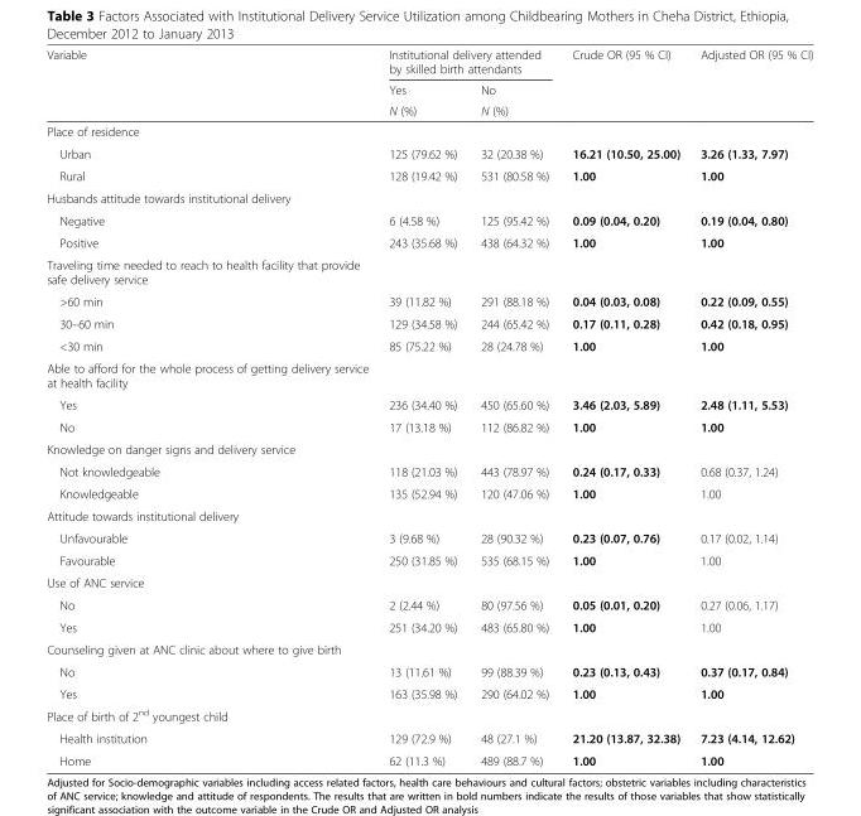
<table><thead><tr><td rowspan="3">Variable</td><td colspan="2">Institutional delivery attended by skilled birth attendants</td><td rowspan="3">Crude OR (95 % CI)</td><td rowspan="3">Adjusted OR (95 % CI)</td></tr><tr><td rowspan="2">Yes N (%)</td><td rowspan="2">No N (%)</td></tr><tr></tr></thead><tbody><tr><td colspan="5">Place of residence</td></tr><tr><td>Urban</td><td>125 (79.62 %)</td><td>32 (20.38 %)</td><td>16.21 (10.50, 25.00)</td><td>3.26 (1.33, 7.97)</td></tr><tr><td>Rural</td><td>128 (19.42 %)</td><td>531 (80.58 %)</td><td>1.00</td><td>1.00</td></tr><tr><td colspan="5">Husbands attitude towards institutional delivery</td></tr><tr><td>Negative</td><td>6 (4.58 %)</td><td>125 (95.42 %)</td><td>0.09 (0.04, 0.20)</td><td>0.19 (0.04, 0.80)</td></tr><tr><td>Positive</td><td>243 (35.68 %)</td><td>438 (64.32 %)</td><td>1.00</td><td>1.00</td></tr><tr><td colspan="5">Traveling time needed to reach to health facility that provide safe delivery service</td></tr><tr><td>&gt;60 min</td><td>39 (11.82 %)</td><td>291 (88.18 %)</td><td>0.04 (0.03, 0.08)</td><td>0.22 (0.09, 0.55)</td></tr><tr><td>30–60 min</td><td>129 (34.58 %)</td><td>244 (65.42 %)</td><td>0.17 (0.11, 0.28)</td><td>0.42 (0.18, 0.95)</td></tr><tr><td>&lt;30 min</td><td>85 (75.22 %)</td><td>28 (24.78 %)</td><td>1.00</td><td>1.00</td></tr><tr><td colspan="5">Able to afford for the whole process of getting delivery service at health facility</td></tr><tr><td>Yes</td><td>236 (34.40 %)</td><td>450 (65.60 %)</td><td>3.46 (2.03, 5.89)</td><td>2.48 (1.11, 5.53)</td></tr><tr><td>No</td><td>17 (13.18 %)</td><td>112 (86.82 %)</td><td>1.00</td><td>1.00</td></tr><tr><td colspan="5">Knowledge on danger signs and delivery service</td></tr><tr><td>Not knowledgeable</td><td>118 (21.03 %)</td><td>443 (78.97 %)</td><td>0.24 (0.17, 0.33)</td><td>0.68 (0.37, 1.24)</td></tr><tr><td>Knowledgeable</td><td>135 (52.94 %)</td><td>120 (47.06 %)</td><td>1.00</td><td>1.00</td></tr><tr><td colspan="5">Attitude towards institutional delivery</td></tr><tr><td>Unfavourable</td><td>3 (9.68 %)</td><td>28 (90.32 %)</td><td>0.23 (0.07, 0.76)</td><td>0.17 (0.02, 1.14)</td></tr><tr><td>Favourable</td><td>250 (31.85 %)</td><td>535 (68.15 %)</td><td>1.00</td><td>1.00</td></tr><tr><td colspan="5">Use of ANC service</td></tr><tr><td>No</td><td>2 (2.44 %)</td><td>80 (97.56 %)</td><td>0.05 (0.01, 0.20)</td><td>0.27 (0.06, 1.17)</td></tr><tr><td>Yes</td><td>251 (34.20 %)</td><td>483 (65.80 %)</td><td>1.00</td><td>1.00</td></tr><tr><td colspan="5">Counseling given at ANC clinic about where to give birth</td></tr><tr><td>No</td><td>13 (11.61 %)</td><td>99 (88.39 %)</td><td>0.23 (0.13, 0.43)</td><td>0.37 (0.17, 0.84)</td></tr><tr><td>Yes</td><td>163 (35.98 %)</td><td>290 (64.02 %)</td><td>1.00</td><td>1.00</td></tr><tr><td colspan="5">Place of birth of 2<sup>nd</sup> youngest child</td></tr><tr><td>Health institution</td><td>129 (72.9 %)</td><td>48 (27.1 %)</td><td>21.20 (13.87, 32.38)</td><td>7.23 (4.14, 12.62)</td></tr><tr><td>Home</td><td>62 (11.3 %)</td><td>489 (88.7 %)</td><td>1.00</td><td>1.00</td></tr></tbody></table>